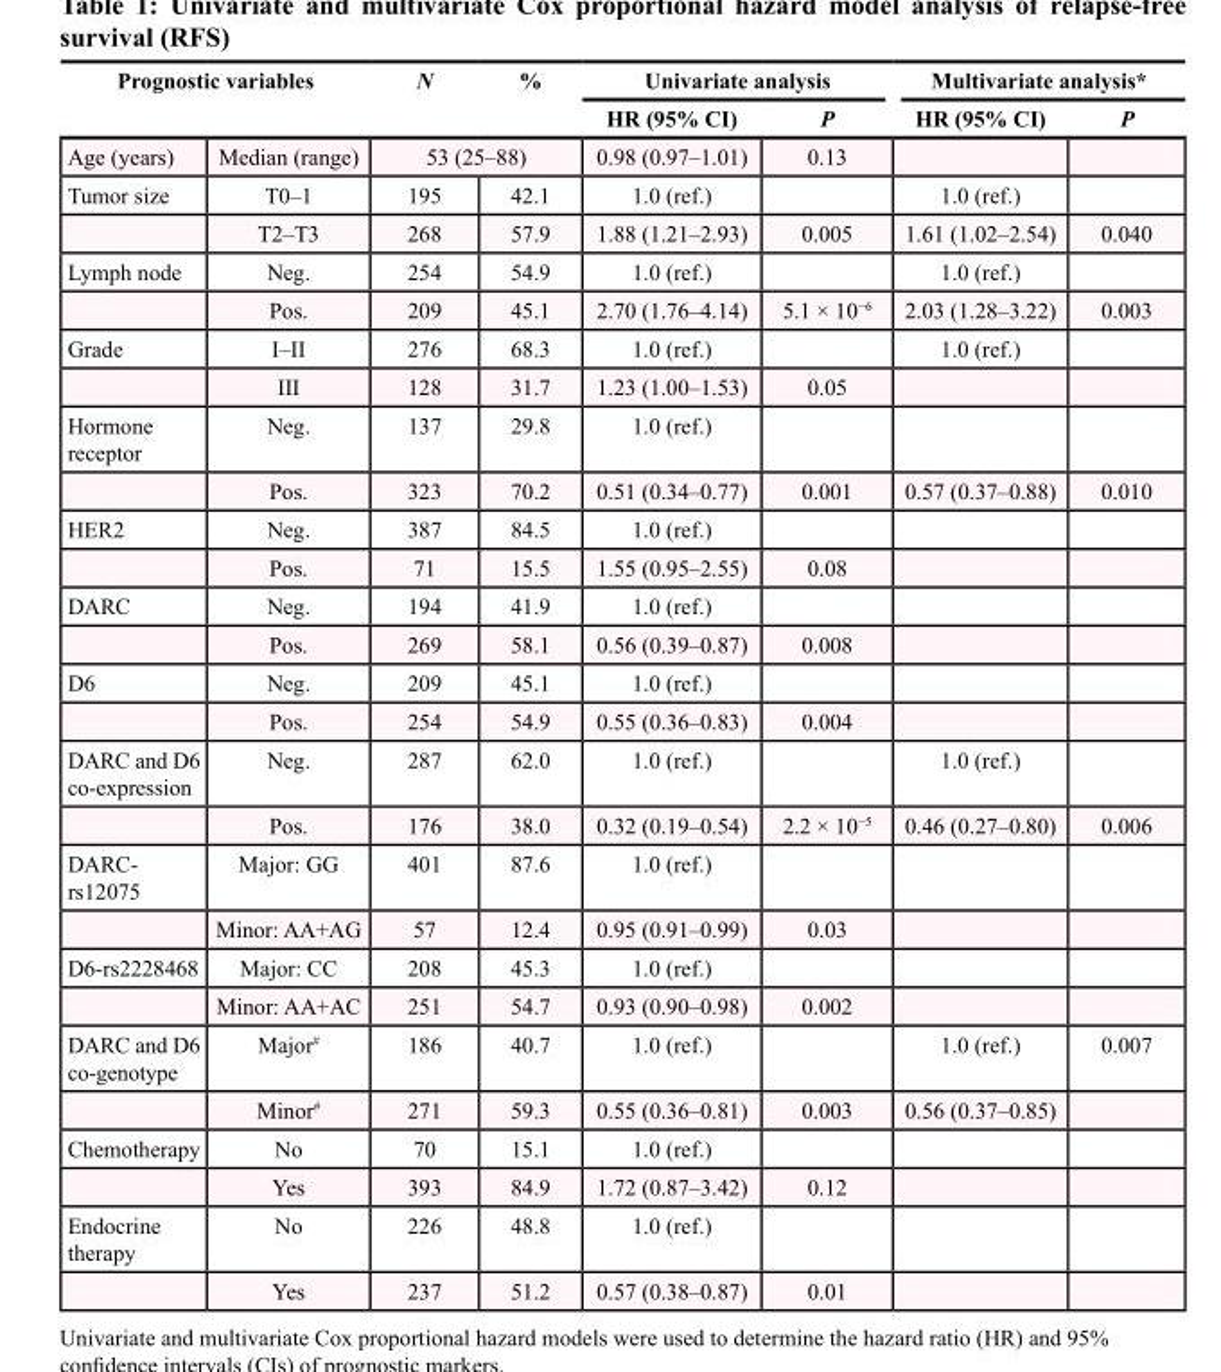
<table><thead><tr><td rowspan="2" colspan="2">Prognostic variables</td><td rowspan="2">N</td><td rowspan="2">%</td><td colspan="2">Univariate analysis</td><td colspan="2">Multivariate analysis*</td></tr><tr><td rowspan="2">HR (95% CI) 0.98 (0.97–1.01)</td><td rowspan="2">P 0.13</td><td rowspan="2">HR (95% CI)</td><td rowspan="2">P</td></tr><tr><td>Age (years)</td><td>Median (range)</td><td colspan="2">53 (25–88)</td></tr></thead><tbody><tr><td rowspan="2">Tumor size</td><td>T0–1</td><td>195</td><td>42.1</td><td>1.0 (ref.)</td><td></td><td>1.0 (ref.)</td><td></td></tr><tr><td>T2–T3</td><td>268</td><td>57.9</td><td>1.88 (1.21–2.93)</td><td>0.005</td><td>1.61 (1.02–2.54)</td><td>0.040</td></tr><tr><td rowspan="2">Lymph node</td><td>Neg.</td><td>254</td><td>54.9</td><td>1.0 (ref.)</td><td></td><td>1.0 (ref.)</td><td></td></tr><tr><td>Pos.</td><td>209</td><td>45.1</td><td>2.70 (1.76–4.14)</td><td>5.1 × 10<sup>−6</sup></td><td>2.03 (1.28–3.22)</td><td>0.003</td></tr><tr><td rowspan="2">Grade</td><td>I–II</td><td>276</td><td>68.3</td><td>1.0 (ref.)</td><td></td><td>1.0 (ref.)</td><td></td></tr><tr><td>III</td><td>128</td><td>31.7</td><td>1.23 (1.00–1.53)</td><td>0.05</td><td></td><td></td></tr><tr><td rowspan="2">Hormone receptor</td><td>Neg.</td><td>137</td><td>29.8</td><td>1.0 (ref.)</td><td></td><td></td><td></td></tr><tr><td>Pos.</td><td>323</td><td>70.2</td><td>0.51 (0.34–0.77)</td><td>0.001</td><td>0.57 (0.37–0.88)</td><td>0.010</td></tr><tr><td rowspan="2">HER2</td><td>Neg.</td><td>387</td><td>84.5</td><td>1.0 (ref.)</td><td></td><td></td><td></td></tr><tr><td>Pos.</td><td>71</td><td>15.5</td><td>1.55 (0.95–2.55)</td><td>0.08</td><td></td><td></td></tr><tr><td rowspan="2">DARC</td><td>Neg.</td><td>194</td><td>41.9</td><td>1.0 (ref.)</td><td></td><td></td><td></td></tr><tr><td>Pos.</td><td>269</td><td>58.1</td><td>0.56 (0.39–0.87)</td><td>0.008</td><td></td><td></td></tr><tr><td rowspan="2">D6</td><td>Neg.</td><td>209</td><td>45.1</td><td>1.0 (ref.)</td><td></td><td></td><td></td></tr><tr><td>Pos.</td><td>254</td><td>54.9</td><td>0.55 (0.36–0.83)</td><td>0.004</td><td></td><td></td></tr><tr><td rowspan="2">DARC and D6 co-expression</td><td>Neg.</td><td>287</td><td>62.0</td><td>1.0 (ref.)</td><td></td><td>1.0 (ref.)</td><td></td></tr><tr><td>Pos.</td><td>176</td><td>38.0</td><td>0.32 (0.19–0.54)</td><td>2.2 × 10<sup>−5</sup></td><td>0.46 (0.27–0.80)</td><td>0.006</td></tr><tr><td rowspan="2">DARC- rs12075</td><td>Major: GG</td><td>401</td><td>87.6</td><td>1.0 (ref.)</td><td></td><td></td><td></td></tr><tr><td>Minor: AA+AG</td><td>57</td><td>12.4</td><td>0.95 (0.91–0.99)</td><td>0.03</td><td></td><td></td></tr><tr><td rowspan="2">D6-rs2228468</td><td>Major: CC</td><td>208</td><td>45.3</td><td>1.0 (ref.)</td><td></td><td></td><td></td></tr><tr><td>Minor: AA+AC</td><td>251</td><td>54.7</td><td>0.93 (0.90–0.98)</td><td>0.002</td><td></td><td></td></tr><tr><td rowspan="2">DARC and D6 co-genotype</td><td>Major<sup>#</sup></td><td>186</td><td>40.7</td><td>1.0 (ref.)</td><td></td><td>1.0 (ref.)</td><td>0.007</td></tr><tr><td>Minor<sup>#</sup></td><td>271</td><td>59.3</td><td>0.55 (0.36–0.81)</td><td>0.003</td><td>0.56 (0.37–0.85)</td><td></td></tr><tr><td rowspan="2">Chemotherapy</td><td>No</td><td>70</td><td>15.1</td><td>1.0 (ref.)</td><td></td><td></td><td></td></tr><tr><td>Yes</td><td>393</td><td>84.9</td><td>1.72 (0.87–3.42)</td><td>0.12</td><td></td><td></td></tr><tr><td rowspan="2">Endocrine therapy</td><td>No</td><td>226</td><td>48.8</td><td>1.0 (ref.)</td><td></td><td></td><td></td></tr><tr><td>Yes</td><td>237</td><td>51.2</td><td>0.57 (0.38–0.87)</td><td>0.01</td><td></td><td></td></tr></tbody></table>